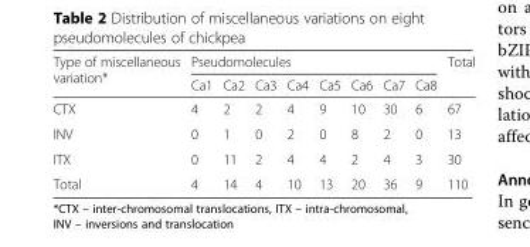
<table><thead><tr><td rowspan="2">Type of miscellaneous variation*</td><td colspan="8">Pseudomolecules</td><td rowspan="2">Total</td></tr><tr><td>Ca1</td><td>Ca2</td><td>Ca3</td><td>Ca4</td><td>Ca5</td><td>Ca6</td><td>Ca7</td><td>Ca8</td></tr></thead><tbody><tr><td>CTX</td><td>4</td><td>2</td><td>2</td><td>4</td><td>9</td><td>10</td><td>30</td><td>6</td><td>67</td></tr><tr><td>INV</td><td>0</td><td>1</td><td>0</td><td>2</td><td>0</td><td>8</td><td>2</td><td>0</td><td>13</td></tr><tr><td>ITX</td><td>0</td><td>11</td><td>2</td><td>4</td><td>4</td><td>2</td><td>4</td><td>3</td><td>30</td></tr><tr><td>Total</td><td>4</td><td>14</td><td>4</td><td>10</td><td>13</td><td>20</td><td>36</td><td>9</td><td>110</td></tr></tbody></table>